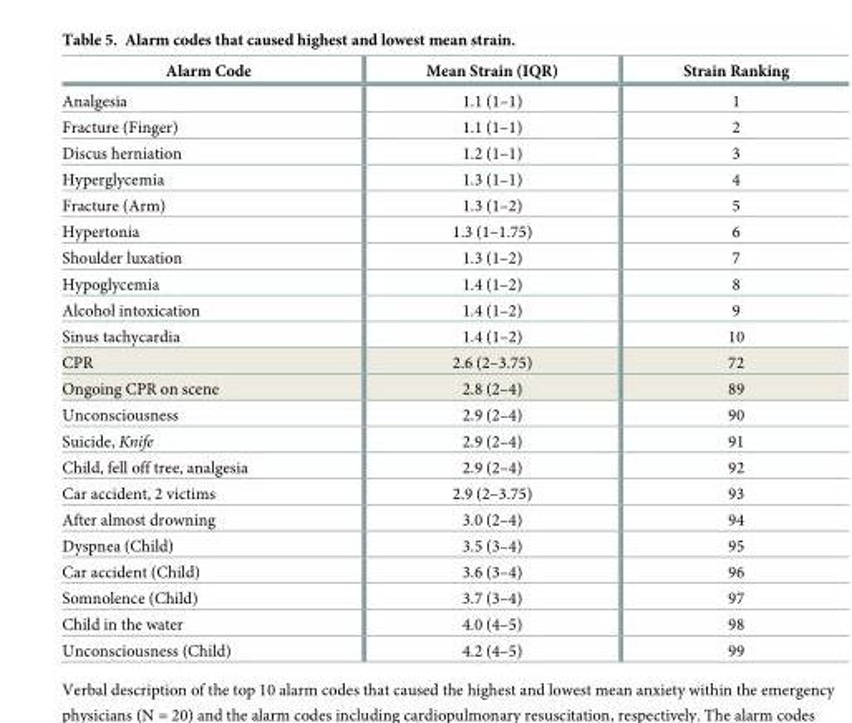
<table><thead><tr><td>Alarm Code</td><td>Mean Strain (IQR)</td><td>Strain Ranking</td></tr></thead><tbody><tr><td>Analgesia</td><td>1.1 (1–1)</td><td>1</td></tr><tr><td>Fracture (Finger)</td><td>1.1 (1–1)</td><td>2</td></tr><tr><td>Discus herniation</td><td>1.2 (1–1)</td><td>3</td></tr><tr><td>Hyperglycemia</td><td>1.3 (1–1)</td><td>4</td></tr><tr><td>Fracture (Arm)</td><td>1.3 (1–2)</td><td>5</td></tr><tr><td>Hypertonia</td><td>1.3 (1–1.75)</td><td>6</td></tr><tr><td>Shoulder luxation</td><td>1.3 (1–2)</td><td>7</td></tr><tr><td>Hypoglycemia</td><td>1.4 (1–2)</td><td>8</td></tr><tr><td>Alcohol intoxication</td><td>1.4 (1–2)</td><td>9</td></tr><tr><td>Sinus tachycardia</td><td>1.4 (1–2)</td><td>10</td></tr><tr><td>CPR</td><td>2.6 (2–3.75)</td><td>72</td></tr><tr><td>Ongoing CPR on scene</td><td>2.8 (2–4)</td><td>89</td></tr><tr><td>Unconsciousness</td><td>2.9 (2–4)</td><td>90</td></tr><tr><td>Suicide, Knife</td><td>2.9 (2–4)</td><td>91</td></tr><tr><td>Child, fell off tree, analgesia</td><td>2.9 (2–4)</td><td>92</td></tr><tr><td>Car accident, 2 victims</td><td>2.9 (2–3.75)</td><td>93</td></tr><tr><td>After almost drowning</td><td>3.0 (2–4)</td><td>94</td></tr><tr><td>Dyspnea (Child)</td><td>3.5 (3–4)</td><td>95</td></tr><tr><td>Car accident (Child)</td><td>3.6 (3–4)</td><td>96</td></tr><tr><td>Somnolence (Child)</td><td>3.7 (3–4)</td><td>97</td></tr><tr><td>Child in the water</td><td>4.0 (4–5)</td><td>98</td></tr><tr><td>Unconsciousness (Child)</td><td>4.2 (4–5)</td><td>99</td></tr></tbody></table>